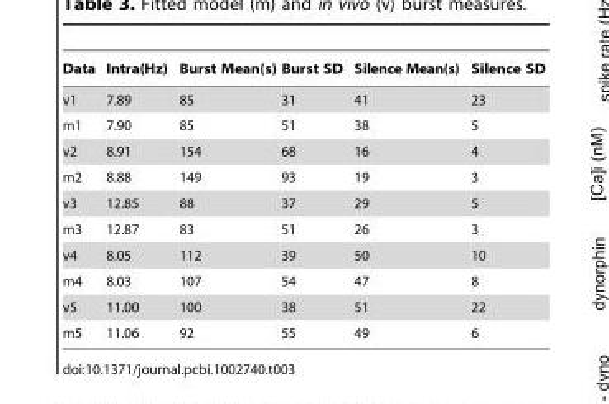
<table><thead><tr><td>Data</td><td>Intra(Hz)</td><td>Burst Mean(s)</td><td>Burst SD</td><td>Silence Mean(s)</td><td>Silence SD</td></tr></thead><tbody><tr><td>v1</td><td>7.89</td><td>85</td><td>31</td><td>41</td><td>23</td></tr><tr><td>m1</td><td>7.90</td><td>85</td><td>51</td><td>38</td><td>5</td></tr><tr><td>v2</td><td>8.91</td><td>154</td><td>68</td><td>16</td><td>4</td></tr><tr><td>m2</td><td>8.88</td><td>149</td><td>93</td><td>19</td><td>3</td></tr><tr><td>v3</td><td>12.85</td><td>88</td><td>37</td><td>29</td><td>5</td></tr><tr><td>m3</td><td>12.87</td><td>83</td><td>51</td><td>26</td><td>3</td></tr><tr><td>v4</td><td>8.05</td><td>112</td><td>39</td><td>50</td><td>10</td></tr><tr><td>m4</td><td>8.03</td><td>107</td><td>54</td><td>47</td><td>8</td></tr><tr><td>v5</td><td>11.00</td><td>100</td><td>38</td><td>51</td><td>22</td></tr><tr><td>m5</td><td>11.06</td><td>92</td><td>55</td><td>49</td><td>6</td></tr></tbody></table>